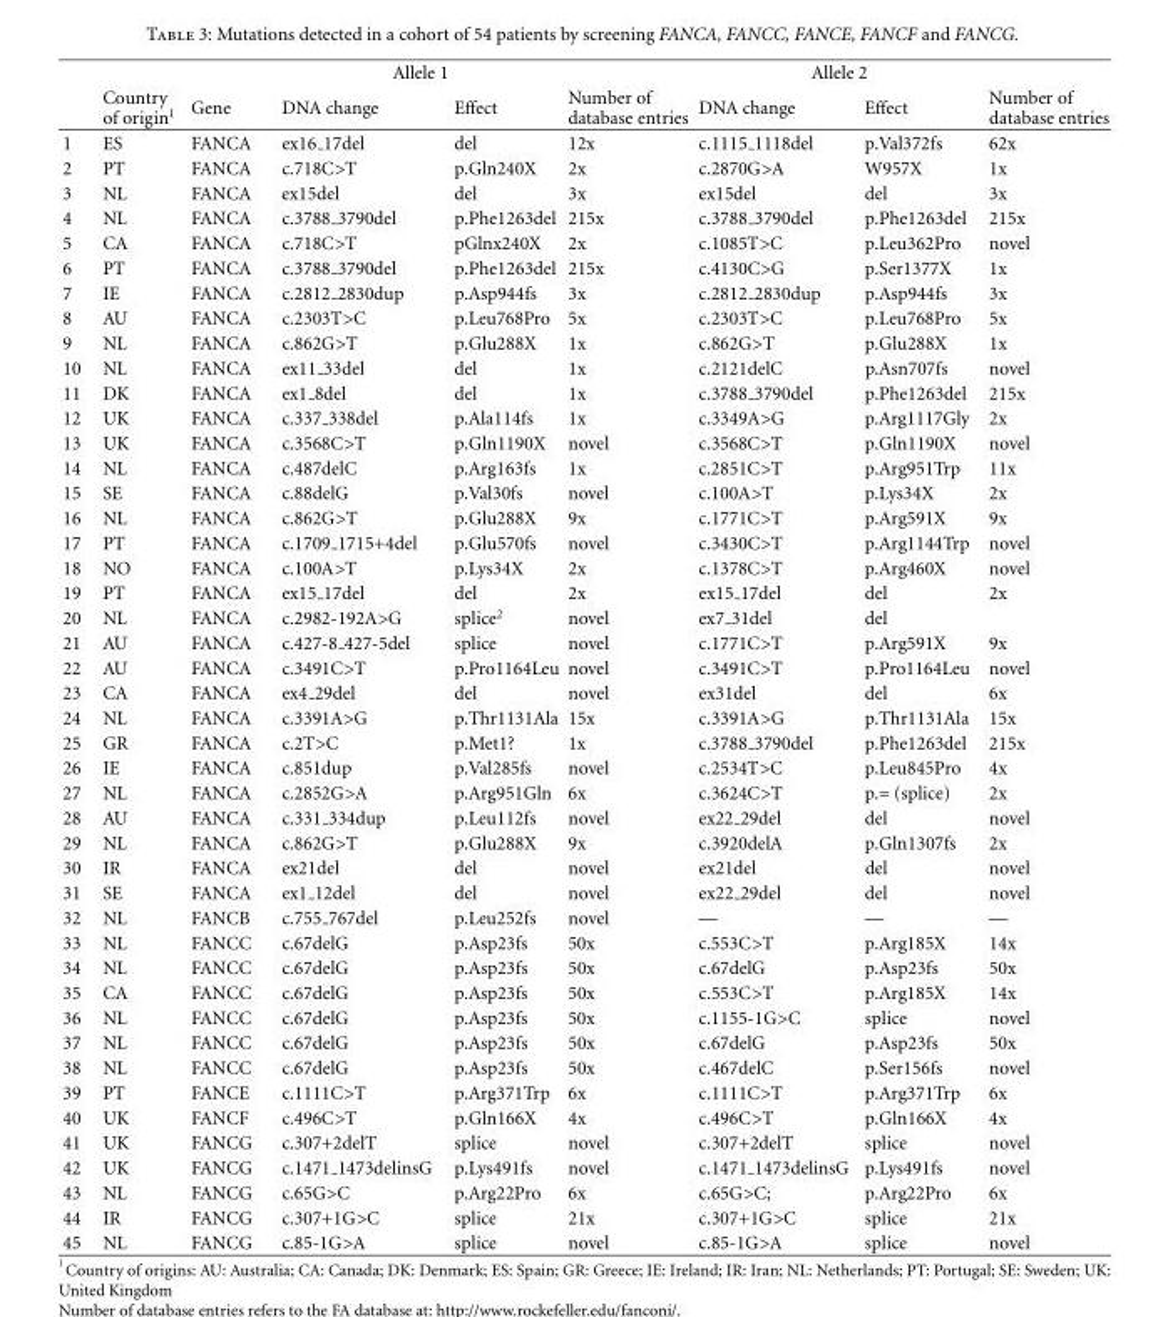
<table><thead><tr><td rowspan="2"></td><td rowspan="2">Country of origin<sup>1</sup></td><td rowspan="2">Gene</td><td colspan="2">Allele 1</td><td rowspan="2">Number of database entries</td><td colspan="2">Allele 2</td><td rowspan="2">Number of database entries</td></tr><tr><td>DNA change</td><td>Effect</td><td>DNA change</td><td>Effect</td></tr></thead><tbody><tr><td>1</td><td>ES</td><td>FANCA</td><td>ex16 17del</td><td>del</td><td>12x</td><td>c.1115 1118del</td><td>p.Val372fs</td><td>62x</td></tr><tr><td>2</td><td>PT</td><td>FANCA</td><td>c.718C&gt;T</td><td>p.Gln240X</td><td>2x</td><td>c.2870G&gt;A</td><td>W957X</td><td>1x</td></tr><tr><td>3</td><td>NL</td><td>FANCA</td><td>ex15del</td><td>del</td><td>3x</td><td>ex15del</td><td>del</td><td>3x</td></tr><tr><td>4</td><td>NL</td><td>FANCA</td><td>c.3788 3790del</td><td>p.Phe1263del</td><td>215x</td><td>c.3788 3790del</td><td>p.Phe1263del</td><td>215x</td></tr><tr><td>5</td><td>CA</td><td>FANCA</td><td>c.718C&gt;T</td><td>pGlnx240X</td><td>2x</td><td>c.1085T&gt;C</td><td>p.Leu362Pro</td><td>novel</td></tr><tr><td>6</td><td>PT</td><td>FANCA</td><td>c.3788 3790del</td><td>p.Phe1263del</td><td>215x</td><td>c.4130C&gt;G</td><td>p.Ser1377X</td><td>1x</td></tr><tr><td>7</td><td>IE</td><td>FANCA</td><td>c.2812 2830dup</td><td>p.Asp944fs</td><td>3x</td><td>c.2812 2830dup</td><td>p.Asp944fs</td><td>3x</td></tr><tr><td>8</td><td>AU</td><td>FANCA</td><td>c.2303T&gt;C</td><td>p.Leu768Pro</td><td>5x</td><td>c.2303T&gt;C</td><td>p.Leu768Pro</td><td>5x</td></tr><tr><td>9</td><td>NL</td><td>FANCA</td><td>c.862G&gt;T</td><td>p.Glu288X</td><td>1x</td><td>c.862G&gt;T</td><td>p.Glu288X</td><td>1x</td></tr><tr><td>10</td><td>NL</td><td>FANCA</td><td>ex11 33del</td><td>del</td><td>1x</td><td>c.2121delC</td><td>p.Asn707fs</td><td>novel</td></tr><tr><td>11</td><td>DK</td><td>FANCA</td><td>ex1 8del</td><td>del</td><td>1x</td><td>c.3788 3790del</td><td>p.Phe1263del</td><td>215x</td></tr><tr><td>12</td><td>UK</td><td>FANCA</td><td>c.337 338del</td><td>p.Ala114fs</td><td>1x</td><td>c.3349A&gt;G</td><td>p.Arg1117Gly</td><td>2x</td></tr><tr><td>13</td><td>UK</td><td>FANCA</td><td>c.3568C&gt;T</td><td>p.Gln1190X</td><td>novel</td><td>c.3568C&gt;T</td><td>p.Gln1190X</td><td>novel</td></tr><tr><td>14</td><td>NL</td><td>FANCA</td><td>c.487delC</td><td>p.Arg163fs</td><td>1x</td><td>c.2851C&gt;T</td><td>p.Arg951Trp</td><td>11x</td></tr><tr><td>15</td><td>SE</td><td>FANCA</td><td>c.88delG</td><td>p.Val30fs</td><td>novel</td><td>c.100A&gt;T</td><td>p.Lys34X</td><td>2x</td></tr><tr><td>16</td><td>NL</td><td>FANCA</td><td>c.862G&gt;T</td><td>p.Glu288X</td><td>9x</td><td>c.1771C&gt;T</td><td>p.Arg591X</td><td>9x</td></tr><tr><td>17</td><td>PT</td><td>FANCA</td><td>c.1709 1715+4del</td><td>p.Glu570fs</td><td>novel</td><td>c.3430C&gt;T</td><td>p.Arg1144Trp</td><td>novel</td></tr><tr><td>18</td><td>NO</td><td>FANCA</td><td>c.100A&gt;T</td><td>p.Lys34X</td><td>2x</td><td>c.1378C&gt;T</td><td>p.Arg460X</td><td>novel</td></tr><tr><td>19</td><td>PT</td><td>FANCA</td><td>ex15 17del</td><td>del</td><td>2x</td><td>ex15 17del</td><td>del</td><td>2x</td></tr><tr><td>20</td><td>NL</td><td>FANCA</td><td>c.2982-192A&gt;G</td><td>splice<sup>2</sup></td><td>novel</td><td>ex7 31del</td><td>del</td><td></td></tr><tr><td>21</td><td>AU</td><td>FANCA</td><td>c.427-8 427-5del</td><td>splice</td><td>novel</td><td>c.1771C&gt;T</td><td>p.Arg591X</td><td>9x</td></tr><tr><td>22</td><td>AU</td><td>FANCA</td><td>c.3491C&gt;T</td><td>p.Pro1164Leu</td><td>novel</td><td>c.3491C&gt;T</td><td>p.Pro1164Leu</td><td>novel</td></tr><tr><td>23</td><td>CA</td><td>FANCA</td><td>ex4 29del</td><td>del</td><td>novel</td><td>ex31del</td><td>del</td><td>6x</td></tr><tr><td>24</td><td>NL</td><td>FANCA</td><td>c.3391A&gt;G</td><td>p.Thr1131Ala</td><td>15x</td><td>c.3391A&gt;G</td><td>p.Thr1131Ala</td><td>15x</td></tr><tr><td>25</td><td>GR</td><td>FANCA</td><td>c.2T&gt;C</td><td>p.Met1?</td><td>1x</td><td>c.3788 3790del</td><td>p.Phe1263del</td><td>215x</td></tr><tr><td>26</td><td>IE</td><td>FANCA</td><td>c.851dup</td><td>p.Val285fs</td><td>novel</td><td>c.2534T&gt;C</td><td>p.Leu845Pro</td><td>4x</td></tr><tr><td>27</td><td>NL</td><td>FANCA</td><td>c.2852G&gt;A</td><td>p.Arg951Gln</td><td>6x</td><td>c.3624C&gt;T</td><td>p.= (splice)</td><td>2x</td></tr><tr><td>28</td><td>AU</td><td>FANCA</td><td>c.331 334dup</td><td>p.Leu112fs</td><td>novel</td><td>ex22 29del</td><td>del</td><td>novel</td></tr><tr><td>29</td><td>NL</td><td>FANCA</td><td>c.862G&gt;T</td><td>p.Glu288X</td><td>9x</td><td>c.3920delA</td><td>p.Gln1307fs</td><td>2x</td></tr><tr><td>30</td><td>IR</td><td>FANCA</td><td>ex21del</td><td>del</td><td>novel</td><td>ex21del</td><td>del</td><td>novel</td></tr><tr><td>31</td><td>SE</td><td>FANCA</td><td>ex1 12del</td><td>del</td><td>novel</td><td>ex22 29del</td><td>del</td><td>novel</td></tr><tr><td>32</td><td>NL</td><td>FANCB</td><td>c.755 767del</td><td>p.Leu252fs</td><td>novel</td><td>—</td><td>—</td><td>—</td></tr><tr><td>33</td><td>NL</td><td>FANCC</td><td>c.67delG</td><td>p.Asp23fs</td><td>50x</td><td>c.553C&gt;T</td><td>p.Arg185X</td><td>14x</td></tr><tr><td>34</td><td>NL</td><td>FANCC</td><td>c.67delG</td><td>p.Asp23fs</td><td>50x</td><td>c.67delG</td><td>p.Asp23fs</td><td>50x</td></tr><tr><td>35</td><td>CA</td><td>FANCC</td><td>c.67delG</td><td>p.Asp23fs</td><td>50x</td><td>c.553C&gt;T</td><td>p.Arg185X</td><td>14x</td></tr><tr><td>36</td><td>NL</td><td>FANCC</td><td>c.67delG</td><td>p.Asp23fs</td><td>50x</td><td>c.1155-1G&gt;C</td><td>splice</td><td>novel</td></tr><tr><td>37</td><td>NL</td><td>FANCC</td><td>c.67delG</td><td>p.Asp23fs</td><td>50x</td><td>c.67delG</td><td>p.Asp23fs</td><td>50x</td></tr><tr><td>38</td><td>NL</td><td>FANCC</td><td>c.67delG</td><td>p.Asp23fs</td><td>50x</td><td>c.467delC</td><td>p.Ser156fs</td><td>novel</td></tr><tr><td>39</td><td>PT</td><td>FANCE</td><td>c.1111C&gt;T</td><td>p.Arg371Trp</td><td>6x</td><td>c.1111C&gt;T</td><td>p.Arg371Trp</td><td>6x</td></tr><tr><td>40</td><td>UK</td><td>FANCF</td><td>c.496C&gt;T</td><td>p.Gln166X</td><td>4x</td><td>c.496C&gt;T</td><td>p.Gln166X</td><td>4x</td></tr><tr><td>41</td><td>UK</td><td>FANCG</td><td>c.307+2delT</td><td>splice</td><td>novel</td><td>c.307+2delT</td><td>splice</td><td>novel</td></tr><tr><td>42</td><td>UK</td><td>FANCG</td><td>c.1471 1473delinsG</td><td>p.Lys491fs</td><td>novel</td><td>c.1471 1473delinsG</td><td>p.Lys491fs</td><td>novel</td></tr><tr><td>43</td><td>NL</td><td>FANCG</td><td>c.65G&gt;C</td><td>p.Arg22Pro</td><td>6x</td><td>c.65G&gt;C;</td><td>p.Arg22Pro</td><td>6x</td></tr><tr><td>44</td><td>IR</td><td>FANCG</td><td>c.307+1G&gt;C</td><td>splice</td><td>21x</td><td>c.307+1G&gt;C</td><td>splice</td><td>21x</td></tr><tr><td>45</td><td>NL</td><td>FANCG</td><td>c.85-1G&gt;A</td><td>splice</td><td>novel</td><td>c.85-1G&gt;A</td><td>splice</td><td>novel</td></tr></tbody></table>